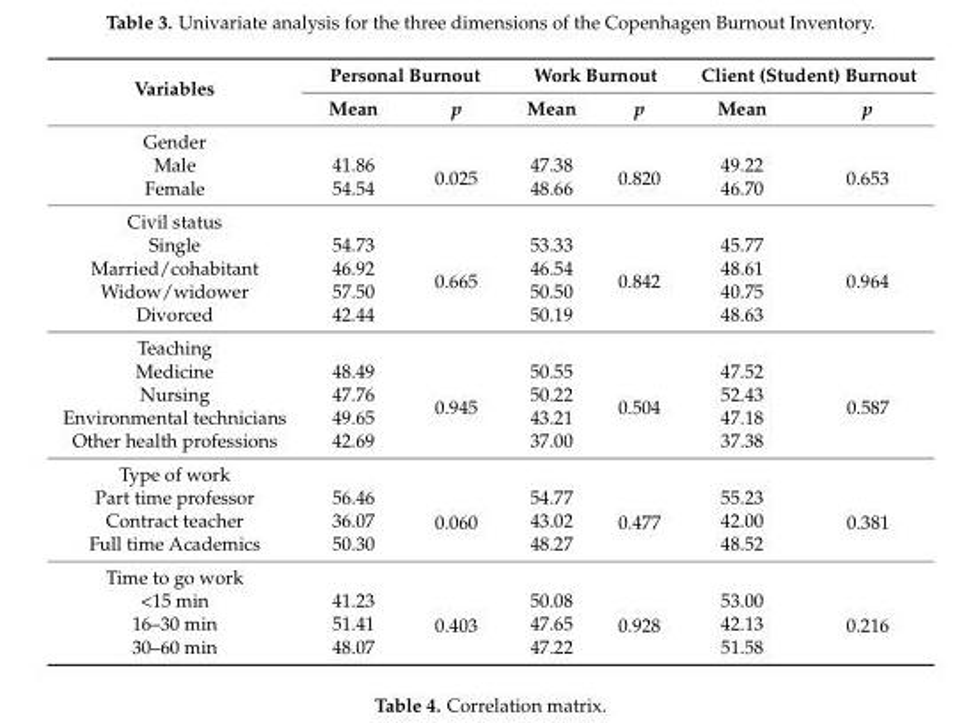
<table><thead><tr><td rowspan="2">Variables</td><td colspan="2">Personal Burnout</td><td colspan="2">Work Burnout</td><td colspan="2">Client (Student) Burnout</td></tr><tr><td>Mean</td><td>p</td><td>Mean</td><td>p</td><td>Mean</td><td>p</td></tr></thead><tbody><tr><td colspan="7">Gender</td></tr><tr><td>Male</td><td>41.86</td><td rowspan="2">0.025</td><td>47.38</td><td rowspan="2">0.820</td><td>49.22</td><td rowspan="2">0.653</td></tr><tr><td>Female</td><td>54.54</td><td>48.66</td><td>46.70</td></tr><tr><td colspan="7">Civil status</td></tr><tr><td>Single</td><td>54.73</td><td rowspan="4">0.665</td><td>53.33</td><td rowspan="4">0.842</td><td>45.77</td><td rowspan="4">0.964</td></tr><tr><td>Married/cohabitant</td><td>46.92</td><td>46.54</td><td>48.61</td></tr><tr><td>Widow/widower</td><td>57.50</td><td>50.50</td><td>40.75</td></tr><tr><td>Divorced</td><td>42.44</td><td>50.19</td><td>48.63</td></tr><tr><td colspan="7">Teaching</td></tr><tr><td>Medicine</td><td>48.49</td><td rowspan="4">0.945</td><td>50.55</td><td rowspan="4">0.504</td><td>47.52</td><td rowspan="4">0.587</td></tr><tr><td>Nursing</td><td>47.76</td><td>50.22</td><td>52.43</td></tr><tr><td>Environmental technicians</td><td>49.65</td><td>43.21</td><td>47.18</td></tr><tr><td>Other health professions</td><td>42.69</td><td>37.00</td><td>37.38</td></tr><tr><td colspan="7">Type of work</td></tr><tr><td>Part time professor</td><td>56.46</td><td rowspan="3">0.060</td><td>54.77</td><td rowspan="3">0.477</td><td>55.23</td><td rowspan="3">0.381</td></tr><tr><td>Contract teacher</td><td>36.07</td><td>43.02</td><td>42.00</td></tr><tr><td>Full time Academics</td><td>50.30</td><td>48.27</td><td>48.52</td></tr><tr><td colspan="7">Time to go work</td></tr><tr><td>&lt;15 min</td><td>41.23</td><td rowspan="3">0.403</td><td>50.08</td><td rowspan="3">0.928</td><td>53.00</td><td rowspan="3">0.216</td></tr><tr><td>16–30 min</td><td>51.41</td><td>47.65</td><td>42.13</td></tr><tr><td>30–60 min</td><td>48.07</td><td>47.22</td><td>51.58</td></tr></tbody></table>